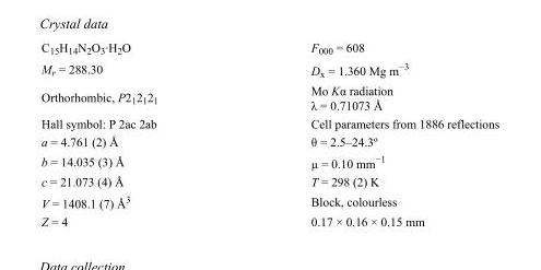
<table><tbody><tr><td>C<sub>15</sub>H<sub>14</sub>N<sub>2</sub>O<sub>3</sub>·H<sub>2</sub>O</td><td>F<sub>000</sub> = 608</td></tr><tr><td>M<sub>r</sub> = 288.30</td><td>D<sub>x</sub> = 1.360 Mg m<sup>−3</sup></td></tr><tr><td>Orthorhombic, P2<sub>1</sub>2<sub>1</sub>2<sub>1</sub></td><td>Mo Kα radiation λ = 0.71073 Å</td></tr><tr><td>Hall symbol: P 2ac 2ab</td><td>Cell parameters from 1886 reflections</td></tr><tr><td>a = 4.761 (2) Å</td><td>θ = 2.5–24.3º</td></tr><tr><td>b = 14.035 (3) Å</td><td>µ = 0.10 mm<sup>−1</sup></td></tr><tr><td>c = 21.073 (4) Å</td><td>T = 298 (2) K</td></tr><tr><td>V = 1408.1 (7) Å<sup>3</sup></td><td>Block, colourless</td></tr><tr><td>Z = 4</td><td>0.17 × 0.16 × 0.15 mm</td></tr></tbody></table>